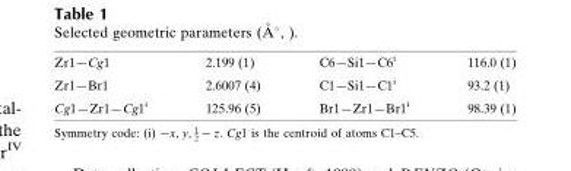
<table><tbody><tr><td>Zr1—Cg1</td><td>2.199 (1)</td><td>C6—Si1—C6<sup>i</sup></td><td>116.0 (1)</td></tr><tr><td>Zr1—Br1</td><td>2.6007 (4)</td><td>C1—Si1—C1<sup>i</sup></td><td>93.2 (1)</td></tr><tr><td>Cg1—Zr1—Cg1<sup>i</sup></td><td>125.96 (5)</td><td>Br1—Zr1—Br1<sup>i</sup></td><td>98.39 (1)</td></tr></tbody></table>